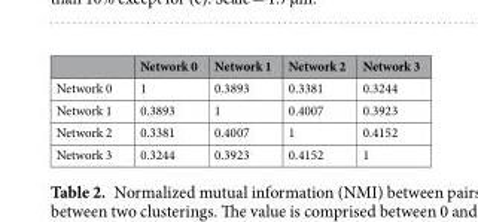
<table><thead><tr><td></td><td>Network 0</td><td>Network 1</td><td>Network 2</td><td>Network 3</td></tr></thead><tbody><tr><td>Network 0</td><td>1</td><td>0.3893</td><td>0.3381</td><td>0.3244</td></tr><tr><td>Network 1</td><td>0.3893</td><td>1</td><td>0.4007</td><td>0.3923</td></tr><tr><td>Network 2</td><td>0.3381</td><td>0.4007</td><td>1</td><td>0.4152</td></tr><tr><td>Network 3</td><td>0.3244</td><td>0.3923</td><td>0.4152</td><td>1</td></tr></tbody></table>